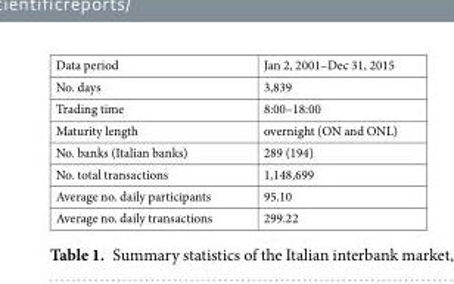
<table><tbody><tr><td>Data period</td><td>Jan 2, 2001–Dec 31, 2015</td></tr><tr><td>No. days</td><td>3,839</td></tr><tr><td>Trading time</td><td>8:00–18:00</td></tr><tr><td>Maturity length</td><td>overnight (ON and ONL)</td></tr><tr><td>No. banks (Italian banks)</td><td>289 (194)</td></tr><tr><td>No. total transactions</td><td>1,148,699</td></tr><tr><td>Average no. daily participants</td><td>95.10</td></tr><tr><td>Average no. daily transactions</td><td>299.22</td></tr></tbody></table>